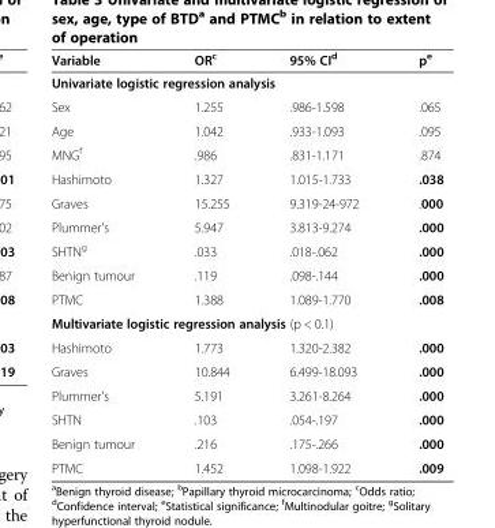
<table><thead><tr><td>Variable</td><td>OR<sup>c</sup></td><td>95% CI<sup>d</sup></td><td>p<sup>e</sup></td></tr></thead><tbody><tr><td colspan="4">Univariate logistic regression analysis</td></tr><tr><td>Sex</td><td>1.255</td><td>.986-1.598</td><td>.065</td></tr><tr><td>Age</td><td>1.042</td><td>.933-1.093</td><td>.095</td></tr><tr><td>MNG<sup>f</sup></td><td>.986</td><td>.831-1.171</td><td>.874</td></tr><tr><td>Hashimoto</td><td>1.327</td><td>1.015-1.733</td><td>.038</td></tr><tr><td>Graves</td><td>15.255</td><td>9.319-24-972</td><td>.000</td></tr><tr><td>Plummer&#x27;s</td><td>5.947</td><td>3.813-9.274</td><td>.000</td></tr><tr><td>SHTN<sup>g</sup></td><td>.033</td><td>.018-.062</td><td>.000</td></tr><tr><td>Benign tumour</td><td>.119</td><td>.098-.144</td><td>.000</td></tr><tr><td>PTMC</td><td>1.388</td><td>1.089-1.770</td><td>.008</td></tr><tr><td colspan="4">Multivariate logistic regression analysis (p &lt; 0.1)</td></tr><tr><td>Hashimoto</td><td>1.773</td><td>1.320-2.382</td><td>.000</td></tr><tr><td>Graves</td><td>10.844</td><td>6.499-18.093</td><td>.000</td></tr><tr><td>Plummer&#x27;s</td><td>5.191</td><td>3.261-8.264</td><td>.000</td></tr><tr><td>SHTN</td><td>.103</td><td>.054-.197</td><td>.000</td></tr><tr><td>Benign tumour</td><td>.216</td><td>.175-.266</td><td>.000</td></tr><tr><td>PTMC</td><td>1.452</td><td>1.098-1.922</td><td>.009</td></tr></tbody></table>